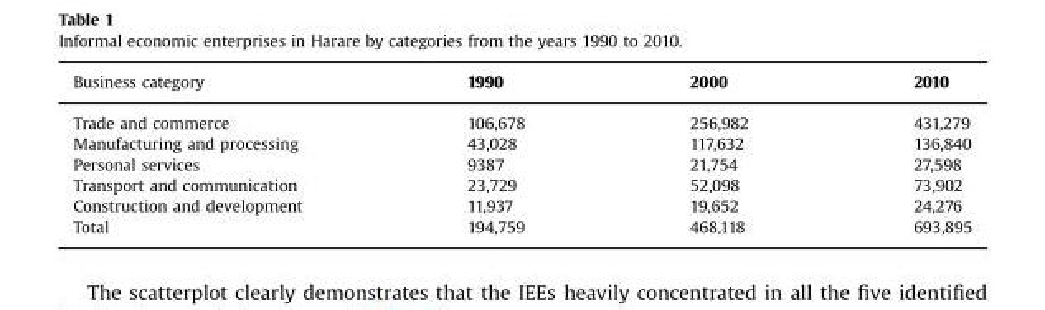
<table><thead><tr><td>Business category</td><td>1990</td><td>2000</td><td>2010</td></tr></thead><tbody><tr><td>Trade and commerce</td><td>106,678</td><td>256,982</td><td>431,279</td></tr><tr><td>Manufacturing and processing</td><td>43,028</td><td>117,632</td><td>136,840</td></tr><tr><td>Personal services</td><td>9387</td><td>21,754</td><td>27,598</td></tr><tr><td>Transport and communication</td><td>23,729</td><td>52,098</td><td>73,902</td></tr><tr><td>Construction and development</td><td>11,937</td><td>19,652</td><td>24,276</td></tr><tr><td>Total</td><td>194,759</td><td>468,118</td><td>693,895</td></tr></tbody></table>